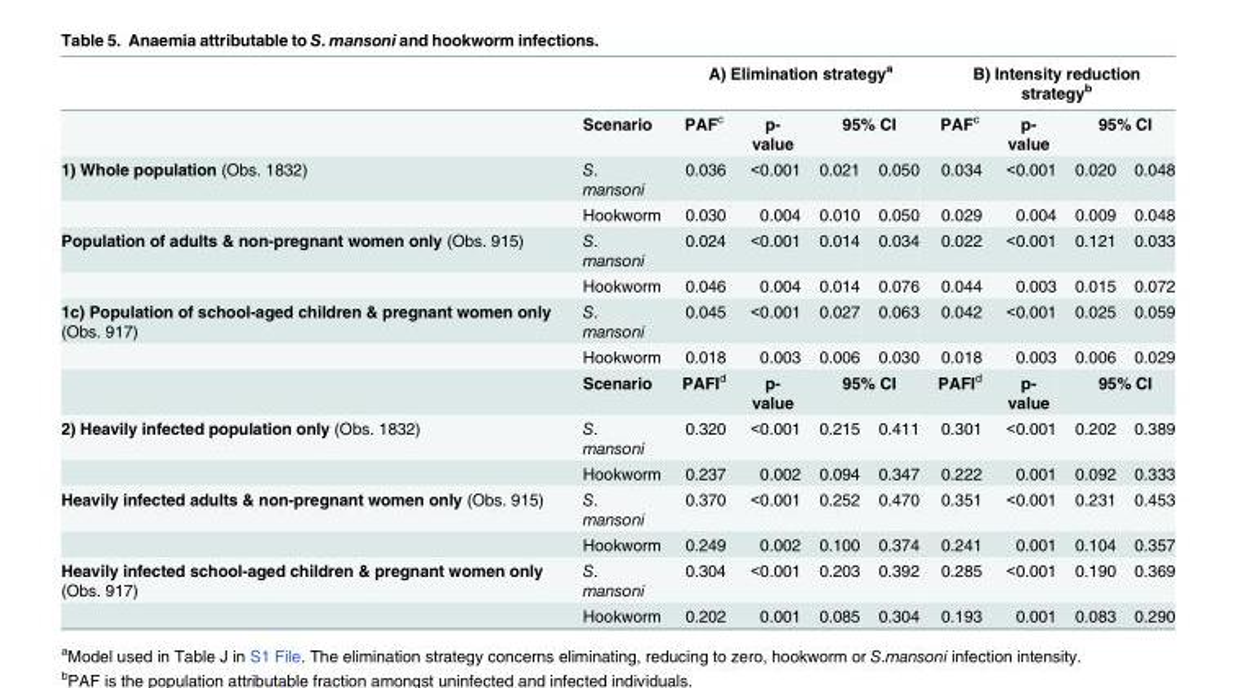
<table><thead><tr><td rowspan="3">1) Whole population (Obs. 1832)</td><td rowspan="3">Scenario S. mansoni</td><td colspan="4">A) Elimination strategy<sup>a</sup></td><td colspan="4">B) Intensity reduction strategy<sup>b</sup></td></tr><tr><td rowspan="2">PAF<sup>c</sup> 0.036</td><td rowspan="2">p- value &lt;0.001</td><td colspan="2">95% CI</td><td rowspan="2">PAF<sup>c</sup> 0.034</td><td rowspan="2">p- value &lt;0.001</td><td colspan="2">95% CI</td></tr><tr><td>0.021</td><td>0.050</td><td>0.020</td><td>0.048</td></tr></thead><tbody><tr><td></td><td>Hookworm</td><td>0.030</td><td>0.004</td><td>0.010</td><td>0.050</td><td>0.029</td><td>0.004</td><td>0.009</td><td>0.048</td></tr><tr><td rowspan="2">Population of adults &amp; non-pregnant women only (Obs. 915)</td><td>S. mansoni</td><td>0.024</td><td>&lt;0.001</td><td>0.014</td><td>0.034</td><td>0.022</td><td>&lt;0.001</td><td>0.121</td><td>0.033</td></tr><tr><td>Hookworm</td><td>0.046</td><td>0.004</td><td>0.014</td><td>0.076</td><td>0.044</td><td>0.003</td><td>0.015</td><td>0.072</td></tr><tr><td rowspan="3">1c) Population of school-aged children &amp; pregnant women only (Obs. 917)</td><td>S. mansoni</td><td>0.045</td><td>&lt;0.001</td><td>0.027</td><td>0.063</td><td>0.042</td><td>&lt;0.001</td><td>0.025</td><td>0.059</td></tr><tr><td>Hookworm</td><td>0.018</td><td>0.003</td><td>0.006</td><td>0.030</td><td>0.018</td><td>0.003</td><td>0.006</td><td>0.029</td></tr><tr><td>Scenario</td><td>PAFI<sup>d</sup></td><td>p- value</td><td colspan="2">95% CI</td><td>PAFI<sup>d</sup></td><td>p- value</td><td colspan="2">95% CI</td></tr><tr><td rowspan="2">2) Heavily infected population only (Obs. 1832)</td><td>S. mansoni</td><td>0.320</td><td>&lt;0.001</td><td>0.215</td><td>0.411</td><td>0.301</td><td>&lt;0.001</td><td>0.202</td><td>0.389</td></tr><tr><td>Hookworm</td><td>0.237</td><td>0.002</td><td>0.094</td><td>0.347</td><td>0.222</td><td>0.001</td><td>0.092</td><td>0.333</td></tr><tr><td rowspan="2">Heavily infected adults &amp; non-pregnant women only (Obs. 915)</td><td>S. mansoni</td><td>0.370</td><td>&lt;0.001</td><td>0.252</td><td>0.470</td><td>0.351</td><td>&lt;0.001</td><td>0.231</td><td>0.453</td></tr><tr><td>Hookworm</td><td>0.249</td><td>0.002</td><td>0.100</td><td>0.374</td><td>0.241</td><td>0.001</td><td>0.104</td><td>0.357</td></tr><tr><td rowspan="2">Heavily infected school-aged children &amp; pregnant women only (Obs. 917)</td><td>S. mansoni</td><td>0.304</td><td>&lt;0.001</td><td>0.203</td><td>0.392</td><td>0.285</td><td>&lt;0.001</td><td>0.190</td><td>0.369</td></tr><tr><td>Hookworm</td><td>0.202</td><td>0.001</td><td>0.085</td><td>0.304</td><td>0.193</td><td>0.001</td><td>0.083</td><td>0.290</td></tr></tbody></table>